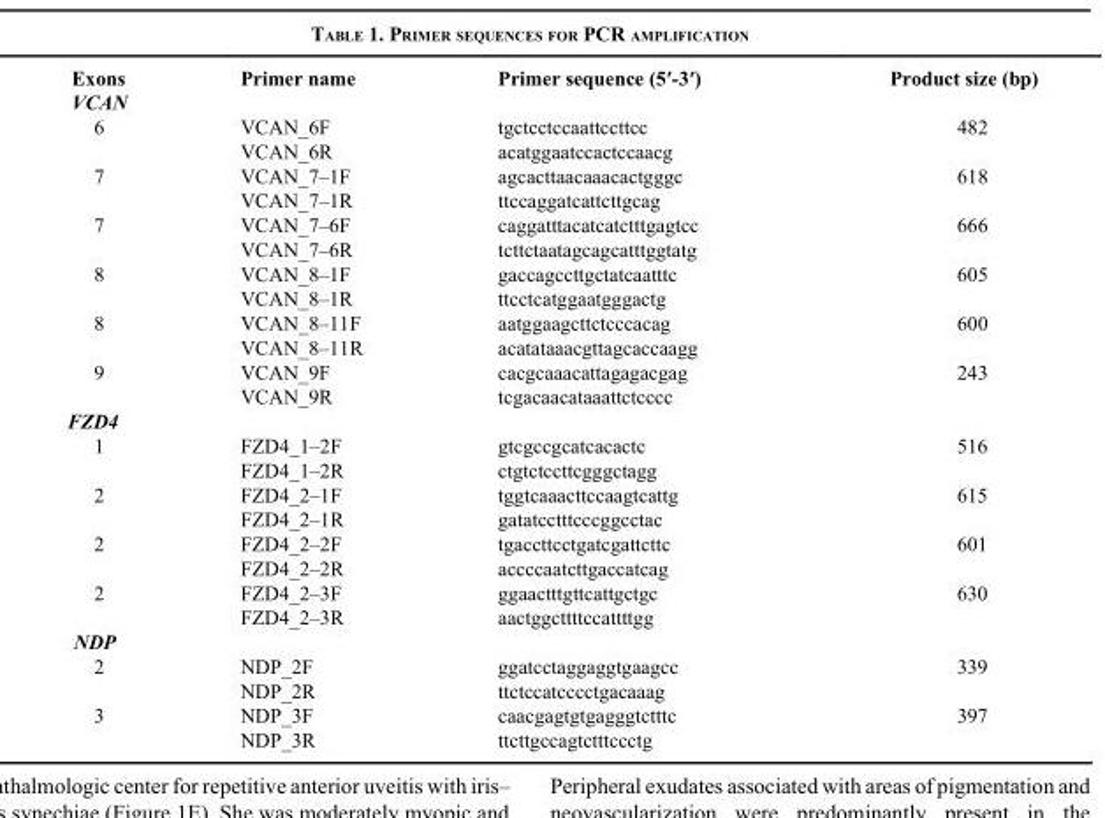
<table><thead><tr><td>Exons</td><td>Primer name</td><td>Primer sequence (5′-3′)</td><td>Product size (bp)</td></tr></thead><tbody><tr><td colspan="4">VCAN</td></tr><tr><td rowspan="2">6</td><td>VCAN_6F</td><td>tgctcctccaattccttcc</td><td>482</td></tr><tr><td>VCAN_6R</td><td>acatggaatccactccaacg</td><td></td></tr><tr><td rowspan="2">7</td><td>VCAN_7–1F</td><td>agcacttaacaaacactgggc</td><td>618</td></tr><tr><td>VCAN_7–1R</td><td>ttccaggatcattcttgcag</td><td></td></tr><tr><td rowspan="2">7</td><td>VCAN_7–6F</td><td>caggatttacatcatctttgagtcc</td><td>666</td></tr><tr><td>VCAN_7–6R</td><td>tcttctaatagcagcatttggtatg</td><td></td></tr><tr><td rowspan="2">8</td><td>VCAN_8–1F</td><td>gaccagccttgctatcaatttc</td><td>605</td></tr><tr><td>VCAN_8–1R</td><td>ttcctcatggaatgggactg</td><td></td></tr><tr><td rowspan="2">8</td><td>VCAN_8–11F</td><td>aatggaagcttctcccacag</td><td>600</td></tr><tr><td>VCAN_8–11R</td><td>acatataaacgttagcaccaagg</td><td></td></tr><tr><td rowspan="2">9</td><td>VCAN_9F</td><td>cacgcaaacattagagacgag</td><td>243</td></tr><tr><td>VCAN_9R</td><td>tcgacaacataaattctcccc</td><td></td></tr><tr><td colspan="4">FZD4</td></tr><tr><td rowspan="2">1</td><td>FZD4_1–2F</td><td>gtcgccgcatcacactc</td><td>516</td></tr><tr><td>FZD4_1–2R</td><td>ctgtctccttcgggctagg</td><td></td></tr><tr><td rowspan="2">2</td><td>FZD4_2–1F</td><td>tggtcaaacttccaagtcattg</td><td>615</td></tr><tr><td>FZD4_2–1R</td><td>gatatcctttcccggcctac</td><td></td></tr><tr><td rowspan="2">2</td><td>FZD4_2–2F</td><td>tgaccttcctgatcgattcttc</td><td>601</td></tr><tr><td>FZD4_2–2R</td><td>accccaatcttgaccatcag</td><td></td></tr><tr><td rowspan="2">2</td><td>FZD4_2–3F</td><td>ggaactttgttcattgctgc</td><td>630</td></tr><tr><td>FZD4_2–3R</td><td>aactggcttttccattttgg</td><td></td></tr><tr><td colspan="4">NDP</td></tr><tr><td rowspan="2">2</td><td>NDP_2F</td><td>ggatcctaggaggtgaagcc</td><td>339</td></tr><tr><td>NDP_2R</td><td>ttctccatcccctgacaaag</td><td></td></tr><tr><td rowspan="2">3</td><td>NDP_3F</td><td>caacgagtgtgagggtctttc</td><td>397</td></tr><tr><td>NDP_3R</td><td>ttcttgccagtctttccctg</td><td></td></tr></tbody></table>